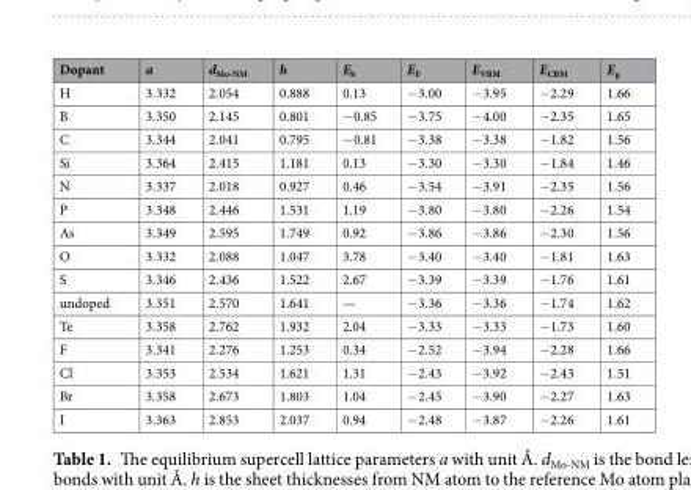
<table><thead><tr><td>Dopant</td><td>a</td><td>d<sub>Mo-NM</sub></td><td>h</td><td>E<sub>b</sub></td><td>E<sub>F</sub></td><td>E<sub>VBM</sub></td><td>E<sub>CBM</sub></td><td>E<sub>g</sub></td></tr></thead><tbody><tr><td>H</td><td>3.332</td><td>2.054</td><td>0.888</td><td>0.13</td><td>−3.00</td><td>−3.95</td><td>−2.29</td><td>1.66</td></tr><tr><td>B</td><td>3.350</td><td>2.145</td><td>0.801</td><td>−0.85</td><td>−3.75</td><td>−4.00</td><td>−2.35</td><td>1.65</td></tr><tr><td>C</td><td>3.344</td><td>2.041</td><td>0.795</td><td>−0.81</td><td>−3.38</td><td>−3.38</td><td>−1.82</td><td>1.56</td></tr><tr><td>Si</td><td>3.364</td><td>2.415</td><td>1.181</td><td>0.13</td><td>−3.30</td><td>−3.30</td><td>−1.84</td><td>1.46</td></tr><tr><td>N</td><td>3.337</td><td>2.018</td><td>0.927</td><td>0.46</td><td>−3.54</td><td>−3.91</td><td>−2.35</td><td>1.56</td></tr><tr><td>P</td><td>3.348</td><td>2.446</td><td>1.531</td><td>1.19</td><td>−3.80</td><td>−3.80</td><td>−2.26</td><td>1.54</td></tr><tr><td>As</td><td>3.349</td><td>2.595</td><td>1.749</td><td>0.92</td><td>−3.86</td><td>−3.86</td><td>−2.30</td><td>1.56</td></tr><tr><td>O</td><td>3.332</td><td>2.088</td><td>1.047</td><td>3.78</td><td>−3.40</td><td>−3.40</td><td>−1.81</td><td>1.63</td></tr><tr><td>S</td><td>3.346</td><td>2.436</td><td>1.522</td><td>2.67</td><td>−3.39</td><td>−3.39</td><td>−1.76</td><td>1.61</td></tr><tr><td>undoped</td><td>3.351</td><td>2.570</td><td>1.641</td><td>—</td><td>−3.36</td><td>−3.36</td><td>−1.74</td><td>1.62</td></tr><tr><td>Te</td><td>3.358</td><td>2.762</td><td>1.932</td><td>2.04</td><td>−3.33</td><td>−3.33</td><td>−1.73</td><td>1.60</td></tr><tr><td>F</td><td>3.341</td><td>2.276</td><td>1.253</td><td>0.34</td><td>−2.52</td><td>−3.94</td><td>−2.28</td><td>1.66</td></tr><tr><td>Cl</td><td>3.353</td><td>2.534</td><td>1.621</td><td>1.31</td><td>−2.43</td><td>−3.92</td><td>−2.43</td><td>1.51</td></tr><tr><td>Br</td><td>3.358</td><td>2.673</td><td>1.803</td><td>1.04</td><td>−2.45</td><td>−3.90</td><td>−2.27</td><td>1.63</td></tr><tr><td>I</td><td>3.363</td><td>2.853</td><td>2.037</td><td>0.94</td><td>−2.48</td><td>−3.87</td><td>−2.26</td><td>1.61</td></tr></tbody></table>